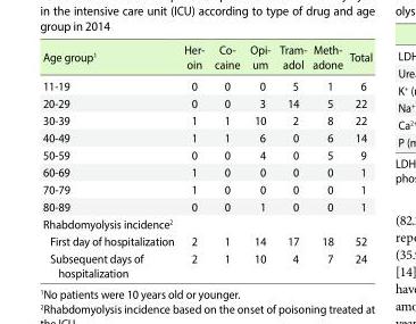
<table><thead><tr><td>Age group<sup>1</sup></td><td>Her- oin</td><td>Co- caine</td><td>Opi- um</td><td>Tram- adol</td><td>Meth- adone</td><td>Total</td></tr></thead><tbody><tr><td>11-19</td><td>0</td><td>0</td><td>0</td><td>5</td><td>1</td><td>6</td></tr><tr><td>20-29</td><td>0</td><td>0</td><td>3</td><td>14</td><td>5</td><td>22</td></tr><tr><td>30-39</td><td>1</td><td>1</td><td>10</td><td>2</td><td>8</td><td>22</td></tr><tr><td>40-49</td><td>1</td><td>1</td><td>6</td><td>0</td><td>6</td><td>14</td></tr><tr><td>50-59</td><td>0</td><td>0</td><td>4</td><td>0</td><td>5</td><td>9</td></tr><tr><td>60-69</td><td>1</td><td>0</td><td>0</td><td>0</td><td>0</td><td>1</td></tr><tr><td>70-79</td><td>1</td><td>0</td><td>0</td><td>0</td><td>0</td><td>1</td></tr><tr><td>80-89</td><td>0</td><td>0</td><td>1</td><td>0</td><td>0</td><td>1</td></tr><tr><td colspan="7">Rhabdomyolysis incidence<sup>2</sup></td></tr><tr><td>First day of hospitalization</td><td>2</td><td>1</td><td>14</td><td>17</td><td>18</td><td>52</td></tr><tr><td>Subsequent days of hospitalization</td><td>2</td><td>1</td><td>10</td><td>4</td><td>7</td><td>24</td></tr></tbody></table>